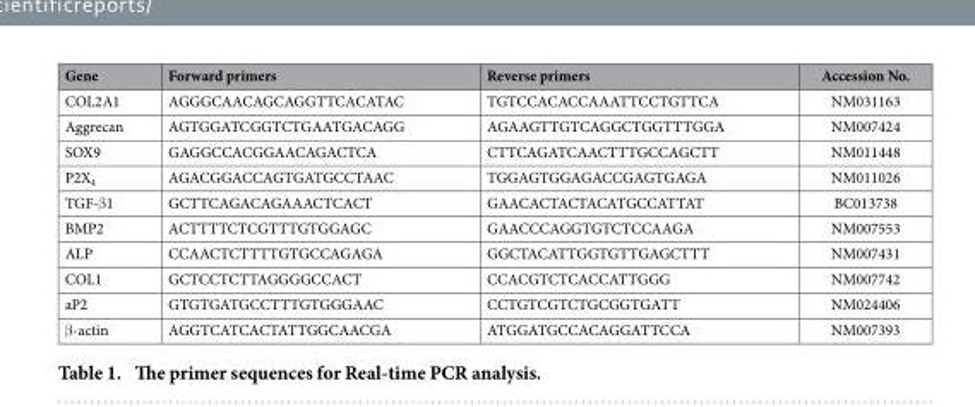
<table><thead><tr><td>Gene</td><td>Forward primers</td><td>Reverse primers</td><td>Accession No.</td></tr></thead><tbody><tr><td>COL2A1</td><td>AGGGCAACAGCAGGTTCACATAC</td><td>TGTCCACACCAAATTCCTGTTCA</td><td>NM031163</td></tr><tr><td>Aggrecan</td><td>AGTGGATCGGTCTGAATGACAGG</td><td>AGAAGTTGTCAGGCTGGTTTGGA</td><td>NM007424</td></tr><tr><td>SOX9</td><td>GAGGCCACGGAACAGACTCA</td><td>CTTCAGATCAACTTTGCCAGCTT</td><td>NM011448</td></tr><tr><td>P2X<sub>4</sub></td><td>AGACGGACCAGTGATGCCTAAC</td><td>TGGAGTGGAGACCGAGTGAGA</td><td>NM011026</td></tr><tr><td>TGF-β 1</td><td>GCTTCAGACAGAAACTCACT</td><td>GAACACTACTACATGCCATTAT</td><td>BC013738</td></tr><tr><td>BMP2</td><td>ACTTTTCTCGTTTGTGGAGC</td><td>GAACCCAGGTGTCTCCAAGA</td><td>NM007553</td></tr><tr><td>ALP</td><td>CCAACTCTTTTGTGCCAGAGA</td><td>GGCTACATTGGTGTTGAGCTTT</td><td>NM007431</td></tr><tr><td>COL1</td><td>GCTCCTCTTAGGGGCCACT</td><td>CCACGTCTCACCATTGGG</td><td>NM007742</td></tr><tr><td>aP2</td><td>GTGTGATGCCTTTGTGGGAAC</td><td>CCTGTCGTCTGCGGTGATT</td><td>NM024406</td></tr><tr><td>β -actin</td><td>AGGTCATCACTATTGGCAACGA</td><td>ATGGATGCCACAGGATTCCA</td><td>NM007393</td></tr></tbody></table>